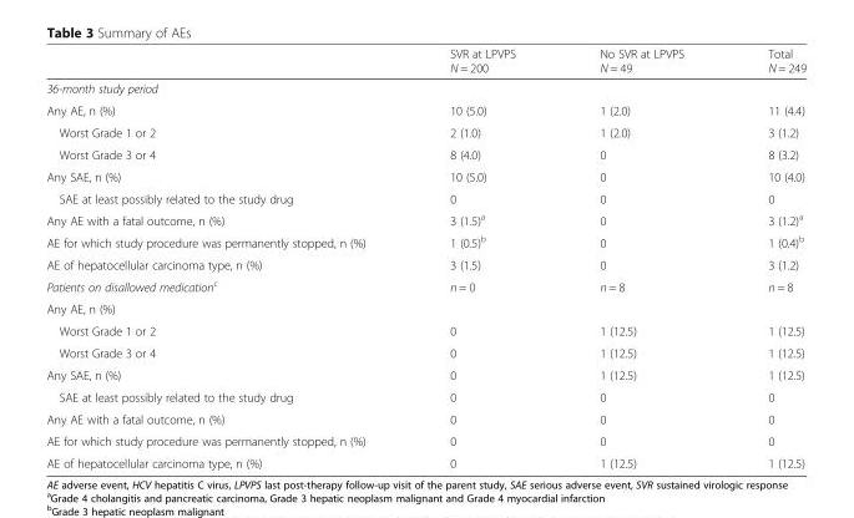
<table><thead><tr><td></td><td>SVR at LPVPS N = 200</td><td>No SVR at LPVPS N = 49</td><td>Total N = 249</td></tr></thead><tbody><tr><td colspan="4">36-month study period</td></tr><tr><td>Any AE, n (%)</td><td>10 (5.0)</td><td>1 (2.0)</td><td>11 (4.4)</td></tr><tr><td>Worst Grade 1 or 2</td><td>2 (1.0)</td><td>1 (2.0)</td><td>3 (1.2)</td></tr><tr><td>Worst Grade 3 or 4</td><td>8 (4.0)</td><td>0</td><td>8 (3.2)</td></tr><tr><td>Any SAE, n (%)</td><td>10 (5.0)</td><td>0</td><td>10 (4.0)</td></tr><tr><td>SAE at least possibly related to the study drug</td><td>0</td><td>0</td><td>0</td></tr><tr><td>Any AE with a fatal outcome, n (%)</td><td>3 (1.5)<sup>a</sup></td><td>0</td><td>3 (1.2)<sup>a</sup></td></tr><tr><td>AE for which study procedure was permanently stopped, n (%)</td><td>1 (0.5)<sup>b</sup></td><td>0</td><td>1 (0.4)<sup>b</sup></td></tr><tr><td>AE of hepatocellular carcinoma type, n (%)</td><td>3 (1.5)</td><td>0</td><td>3 (1.2)</td></tr><tr><td>Patients on disallowed medication<sup>c</sup></td><td>n = 0</td><td>n = 8</td><td>n = 8</td></tr><tr><td colspan="4">Any AE, n (%)</td></tr><tr><td>Worst Grade 1 or 2</td><td>0</td><td>1 (12.5)</td><td>1 (12.5)</td></tr><tr><td>Worst Grade 3 or 4</td><td>0</td><td>1 (12.5)</td><td>1 (12.5)</td></tr><tr><td>Any SAE, n (%)</td><td>0</td><td>1 (12.5)</td><td>1 (12.5)</td></tr><tr><td>SAE at least possibly related to the study drug</td><td>0</td><td>0</td><td>0</td></tr><tr><td>Any AE with a fatal outcome, n (%)</td><td>0</td><td>0</td><td>0</td></tr><tr><td>AE for which study procedure was permanently stopped, n (%)</td><td>0</td><td>0</td><td>0</td></tr><tr><td>AE of hepatocellular carcinoma type, n (%)</td><td>0</td><td>1 (12.5)</td><td>1 (12.5)</td></tr></tbody></table>